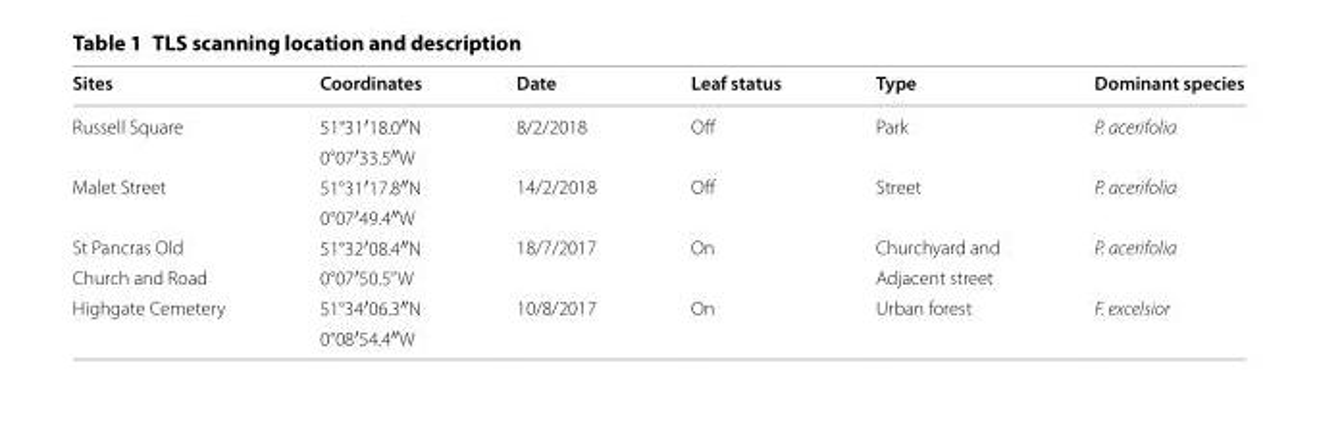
<table><thead><tr><td>Sites</td><td>Coordinates</td><td>Date</td><td>Leaf status</td><td>Type</td><td>Dominant species</td></tr></thead><tbody><tr><td rowspan="2">Russell Square</td><td>51°31′18.0″N</td><td>8/2/2018</td><td>Off</td><td>Park</td><td>P. acerifolia</td></tr><tr><td>0°07′33.5″W</td><td></td><td></td><td></td><td></td></tr><tr><td rowspan="2">Malet Street</td><td>51°31′17.8″N</td><td>14/2/2018</td><td>Off</td><td>Street</td><td>P. acerifolia</td></tr><tr><td>0°07′49.4″W</td><td></td><td></td><td></td><td></td></tr><tr><td>St Pancras Old</td><td>51°32′08.4″N</td><td>18/7/2017</td><td>On</td><td>Churchyard and</td><td>P. acerifolia</td></tr><tr><td>Church and Road</td><td>0°07′50.5”W</td><td></td><td></td><td>Adjacent street</td><td></td></tr><tr><td rowspan="2">Highgate Cemetery</td><td>51°34′06.3″N</td><td>10/8/2017</td><td>On</td><td>Urban forest</td><td>F. excelsior</td></tr><tr><td>0°08′54.4″W</td><td></td><td></td><td></td><td></td></tr></tbody></table>